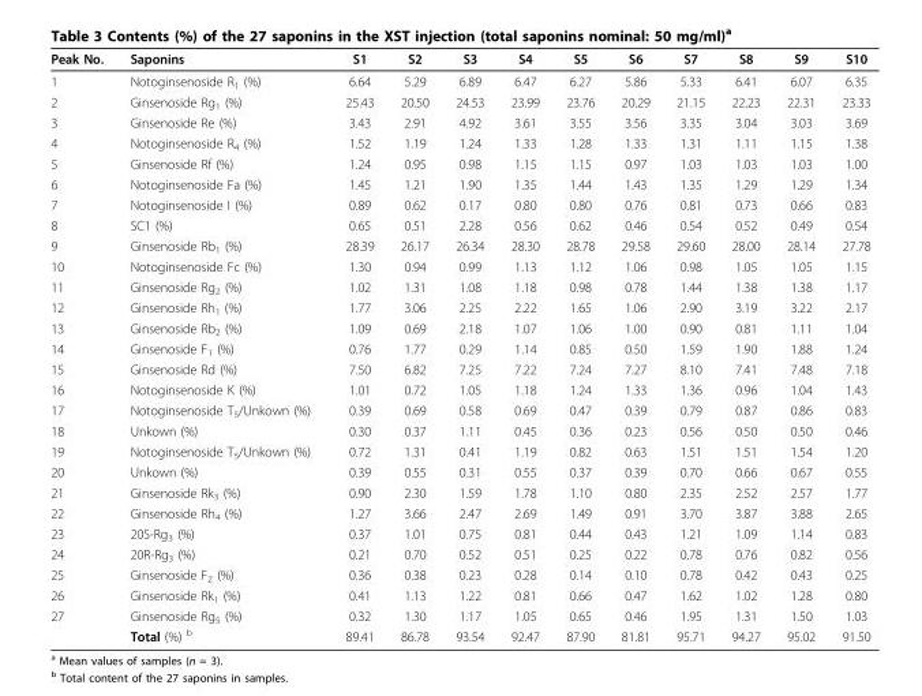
<table><thead><tr><td>Peak No.</td><td>Saponins</td><td>S1</td><td>S2</td><td>S3</td><td>S4</td><td>S5</td><td>S6</td><td>S7</td><td>S8</td><td>S9</td><td>S10</td></tr></thead><tbody><tr><td>1</td><td>Notoginsenoside R<sub>1</sub> (%)</td><td>6.64</td><td>5.29</td><td>6.89</td><td>6.47</td><td>6.27</td><td>5.86</td><td>5.33</td><td>6.41</td><td>6.07</td><td>6.35</td></tr><tr><td>2</td><td>Ginsenoside Rg<sub>1</sub> (%)</td><td>25.43</td><td>20.50</td><td>24.53</td><td>23.99</td><td>23.76</td><td>20.29</td><td>21.15</td><td>22.23</td><td>22.31</td><td>23.33</td></tr><tr><td>3</td><td>Ginsenoside Re (%)</td><td>3.43</td><td>2.91</td><td>4.92</td><td>3.61</td><td>3.55</td><td>3.56</td><td>3.35</td><td>3.04</td><td>3.03</td><td>3.69</td></tr><tr><td>4</td><td>Notoginsenoside R<sub>4</sub> (%)</td><td>1.52</td><td>1.19</td><td>1.24</td><td>1.33</td><td>1.28</td><td>1.33</td><td>1.31</td><td>1.11</td><td>1.15</td><td>1.38</td></tr><tr><td>5</td><td>Ginsenoside Rf (%)</td><td>1.24</td><td>0.95</td><td>0.98</td><td>1.15</td><td>1.15</td><td>0.97</td><td>1.03</td><td>1.03</td><td>1.03</td><td>1.00</td></tr><tr><td>6</td><td>Notoginsenoside Fa (%)</td><td>1.45</td><td>1.21</td><td>1.90</td><td>1.35</td><td>1.44</td><td>1.43</td><td>1.35</td><td>1.29</td><td>1.29</td><td>1.34</td></tr><tr><td>7</td><td>Notoginsenoside I (%)</td><td>0.89</td><td>0.62</td><td>0.17</td><td>0.80</td><td>0.80</td><td>0.76</td><td>0.81</td><td>0.73</td><td>0.66</td><td>0.83</td></tr><tr><td>8</td><td>SC1 (%)</td><td>0.65</td><td>0.51</td><td>2.28</td><td>0.56</td><td>0.62</td><td>0.46</td><td>0.54</td><td>0.52</td><td>0.49</td><td>0.54</td></tr><tr><td>9</td><td>Ginsenoside Rb<sub>1</sub> (%)</td><td>28.39</td><td>26.17</td><td>26.34</td><td>28.30</td><td>28.78</td><td>29.58</td><td>29.60</td><td>28.00</td><td>28.14</td><td>27.78</td></tr><tr><td>10</td><td>Notoginsenoside Fc (%)</td><td>1.30</td><td>0.94</td><td>0.99</td><td>1.13</td><td>1.12</td><td>1.06</td><td>0.98</td><td>1.05</td><td>1.05</td><td>1.15</td></tr><tr><td>11</td><td>Ginsenoside Rg<sub>2</sub> (%)</td><td>1.02</td><td>1.31</td><td>1.08</td><td>1.18</td><td>0.98</td><td>0.78</td><td>1.44</td><td>1.38</td><td>1.38</td><td>1.17</td></tr><tr><td>12</td><td>Ginsenoside Rh<sub>1</sub> (%)</td><td>1.77</td><td>3.06</td><td>2.25</td><td>2.22</td><td>1.65</td><td>1.06</td><td>2.90</td><td>3.19</td><td>3.22</td><td>2.17</td></tr><tr><td>13</td><td>Ginsenoside Rb<sub>2</sub> (%)</td><td>1.09</td><td>0.69</td><td>2.18</td><td>1.07</td><td>1.06</td><td>1.00</td><td>0.90</td><td>0.81</td><td>1.11</td><td>1.04</td></tr><tr><td>14</td><td>Ginsenoside F<sub>1</sub> (%)</td><td>0.76</td><td>1.77</td><td>0.29</td><td>1.14</td><td>0.85</td><td>0.50</td><td>1.59</td><td>1.90</td><td>1.88</td><td>1.24</td></tr><tr><td>15</td><td>Ginsenoside Rd (%)</td><td>7.50</td><td>6.82</td><td>7.25</td><td>7.22</td><td>7.24</td><td>7.27</td><td>8.10</td><td>7.41</td><td>7.48</td><td>7.18</td></tr><tr><td>16</td><td>Notoginsenoside K (%)</td><td>1.01</td><td>0.72</td><td>1.05</td><td>1.18</td><td>1.24</td><td>1.33</td><td>1.36</td><td>0.96</td><td>1.04</td><td>1.43</td></tr><tr><td>17</td><td>Notoginsenoside T<sub>5</sub>/Unkown (%)</td><td>0.39</td><td>0.69</td><td>0.58</td><td>0.69</td><td>0.47</td><td>0.39</td><td>0.79</td><td>0.87</td><td>0.86</td><td>0.83</td></tr><tr><td>18</td><td>Unkown (%)</td><td>0.30</td><td>0.37</td><td>1.11</td><td>0.45</td><td>0.36</td><td>0.23</td><td>0.56</td><td>0.50</td><td>0.50</td><td>0.46</td></tr><tr><td>19</td><td>Notoginsenoside T<sub>5</sub>/Unkown (%)</td><td>0.72</td><td>1.31</td><td>0.41</td><td>1.19</td><td>0.82</td><td>0.63</td><td>1.51</td><td>1.51</td><td>1.54</td><td>1.20</td></tr><tr><td>20</td><td>Unkown (%)</td><td>0.39</td><td>0.55</td><td>0.31</td><td>0.55</td><td>0.37</td><td>0.39</td><td>0.70</td><td>0.66</td><td>0.67</td><td>0.55</td></tr><tr><td>21</td><td>Ginsenoside Rk<sub>3</sub> (%)</td><td>0.90</td><td>2.30</td><td>1.59</td><td>1.78</td><td>1.10</td><td>0.80</td><td>2.35</td><td>2.52</td><td>2.57</td><td>1.77</td></tr><tr><td>22</td><td>Ginsenoside Rh<sub>4</sub> (%)</td><td>1.27</td><td>3.66</td><td>2.47</td><td>2.69</td><td>1.49</td><td>0.91</td><td>3.70</td><td>3.87</td><td>3.88</td><td>2.65</td></tr><tr><td>23</td><td>20S-Rg<sub>3</sub> (%)</td><td>0.37</td><td>1.01</td><td>0.75</td><td>0.81</td><td>0.44</td><td>0.43</td><td>1.21</td><td>1.09</td><td>1.14</td><td>0.83</td></tr><tr><td>24</td><td>20R-Rg<sub>3</sub> (%)</td><td>0.21</td><td>0.70</td><td>0.52</td><td>0.51</td><td>0.25</td><td>0.22</td><td>0.78</td><td>0.76</td><td>0.82</td><td>0.56</td></tr><tr><td>25</td><td>Ginsenoside F<sub>2</sub> (%)</td><td>0.36</td><td>0.38</td><td>0.23</td><td>0.28</td><td>0.14</td><td>0.10</td><td>0.78</td><td>0.42</td><td>0.43</td><td>0.25</td></tr><tr><td>26</td><td>Ginsenoside Rk<sub>1</sub> (%)</td><td>0.41</td><td>1.13</td><td>1.22</td><td>0.81</td><td>0.66</td><td>0.47</td><td>1.62</td><td>1.02</td><td>1.28</td><td>0.80</td></tr><tr><td rowspan="2">27</td><td>Ginsenoside Rg<sub>5</sub> (%)</td><td>0.32</td><td>1.30</td><td>1.17</td><td>1.05</td><td>0.65</td><td>0.46</td><td>1.95</td><td>1.31</td><td>1.50</td><td>1.03</td></tr><tr><td>Total (%) <sup>b</sup></td><td>89.41</td><td>86.78</td><td>93.54</td><td>92.47</td><td>87.90</td><td>81.81</td><td>95.71</td><td>94.27</td><td>95.02</td><td>91.50</td></tr></tbody></table>